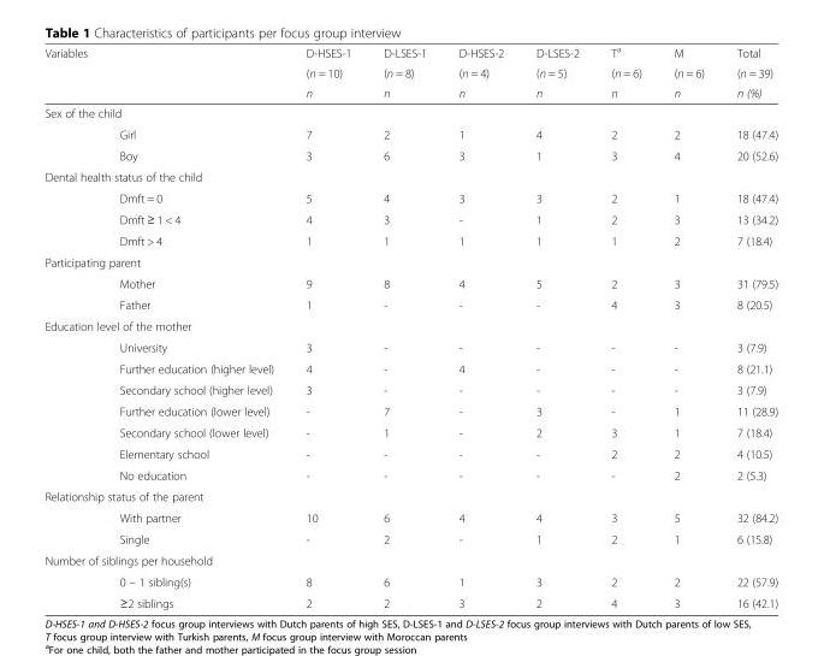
<table><thead><tr><td rowspan="3">Variables</td><td rowspan="3"></td><td rowspan="3">D-HSES-1 (n = 10) n</td><td rowspan="3">D-LSES-1 (n = 8) n</td><td rowspan="3">D-HSES-2 (n = 4) n</td><td rowspan="3">D-LSES-2 (n = 5) n</td><td rowspan="3">T<sup>a</sup> (n = 6) n</td><td rowspan="3">M (n = 6) n</td><td rowspan="3">Total (n = 39) n (%)</td></tr><tr></tr><tr></tr></thead><tbody><tr><td colspan="9">Sex of the child</td></tr><tr><td></td><td>Girl</td><td>7</td><td>2</td><td>1</td><td>4</td><td>2</td><td>2</td><td>18 (47.4)</td></tr><tr><td></td><td>Boy</td><td>3</td><td>6</td><td>3</td><td>1</td><td>3</td><td>4</td><td>20 (52.6)</td></tr><tr><td colspan="9">Dental health status of the child</td></tr><tr><td></td><td>Dmft = 0</td><td>5</td><td>4</td><td>3</td><td>3</td><td>2</td><td>1</td><td>18 (47.4)</td></tr><tr><td></td><td>Dmft ≥ 1 &lt; 4</td><td>4</td><td>3</td><td>-</td><td>1</td><td>2</td><td>3</td><td>13 (34.2)</td></tr><tr><td></td><td>Dmft &gt; 4</td><td>1</td><td>1</td><td>1</td><td>1</td><td>1</td><td>2</td><td>7 (18.4)</td></tr><tr><td colspan="9">Participating parent</td></tr><tr><td></td><td>Mother</td><td>9</td><td>8</td><td>4</td><td>5</td><td>2</td><td>3</td><td>31 (79.5)</td></tr><tr><td></td><td>Father</td><td>1</td><td>-</td><td>-</td><td>-</td><td>4</td><td>3</td><td>8 (20.5)</td></tr><tr><td colspan="9">Education level of the mother</td></tr><tr><td></td><td>University</td><td>3</td><td>-</td><td>-</td><td>-</td><td>-</td><td>-</td><td>3 (7.9)</td></tr><tr><td></td><td>Further education (higher level)</td><td>4</td><td>-</td><td>4</td><td>-</td><td>-</td><td>-</td><td>8 (21.1)</td></tr><tr><td></td><td>Secondary school (higher level)</td><td>3</td><td>-</td><td>-</td><td>-</td><td>-</td><td>-</td><td>3 (7.9)</td></tr><tr><td></td><td>Further education (lower level)</td><td>-</td><td>7</td><td>-</td><td>3</td><td>-</td><td>1</td><td>11 (28.9)</td></tr><tr><td></td><td>Secondary school (lower level)</td><td>-</td><td>1</td><td>-</td><td>2</td><td>3</td><td>1</td><td>7 (18.4)</td></tr><tr><td></td><td>Elementary school</td><td>-</td><td>-</td><td>-</td><td>-</td><td>2</td><td>2</td><td>4 (10.5)</td></tr><tr><td></td><td>No education</td><td>-</td><td>-</td><td>-</td><td>-</td><td>-</td><td>2</td><td>2 (5.3)</td></tr><tr><td colspan="9">Relationship status of the parent</td></tr><tr><td></td><td>With partner</td><td>10</td><td>6</td><td>4</td><td>4</td><td>3</td><td>5</td><td>32 (84.2)</td></tr><tr><td></td><td>Single</td><td>-</td><td>2</td><td>-</td><td>1</td><td>2</td><td>1</td><td>6 (15.8)</td></tr><tr><td colspan="9">Number of siblings per household</td></tr><tr><td></td><td>0 – 1 sibling(s)</td><td>8</td><td>6</td><td>1</td><td>3</td><td>2</td><td>2</td><td>22 (57.9)</td></tr><tr><td></td><td>≥2 siblings</td><td>2</td><td>2</td><td>3</td><td>2</td><td>4</td><td>3</td><td>16 (42.1)</td></tr></tbody></table>